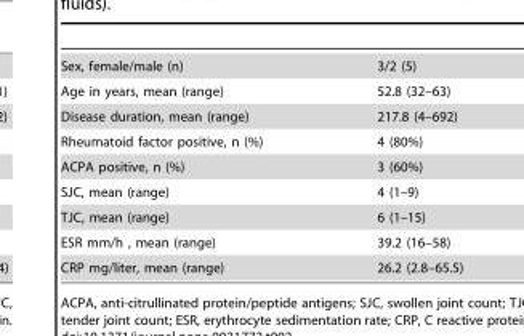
<table><tbody><tr><td>Sex, female/male (n)</td><td>3/2 (5)</td></tr><tr><td>Age in years, mean (range)</td><td>52.8 (32–63)</td></tr><tr><td>Disease duration, mean (range)</td><td>217.8 (4–692)</td></tr><tr><td>Rheumatoid factor positive, n (%)</td><td>4 (80%)</td></tr><tr><td>ACPA positive, n (%)</td><td>3 (60%)</td></tr><tr><td>SJC, mean (range)</td><td>4 (1–9)</td></tr><tr><td>TJC, mean (range)</td><td>6 (1–15)</td></tr><tr><td>ESR mm/h , mean (range)</td><td>39.2 (16–58)</td></tr><tr><td>CRP mg/liter, mean (range)</td><td>26.2 (2.8–65.5)</td></tr></tbody></table>